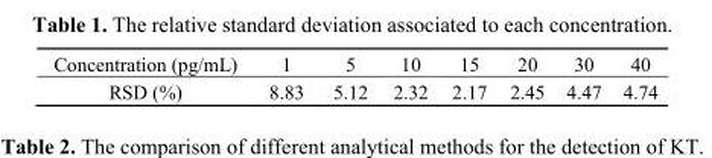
<table><tbody><tr><td>Concentration (pg/mL)</td><td>1</td><td>5</td><td>10</td><td>15</td><td>20</td><td>30</td><td>40</td></tr><tr><td>RSD (%)</td><td>8.83</td><td>5.12</td><td>2.32</td><td>2.17</td><td>2.45</td><td>4.47</td><td>4.74</td></tr></tbody></table>